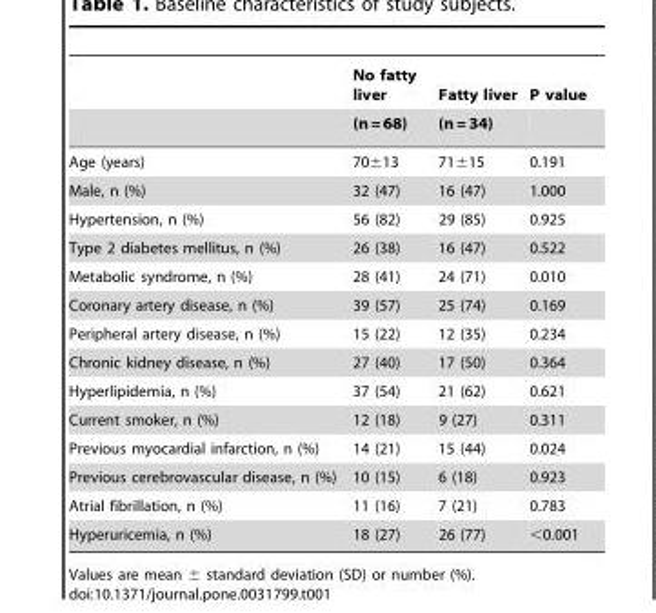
<table><thead><tr><td rowspan="2"></td><td rowspan="2">No fatty liver (n = 68)</td><td rowspan="2">Fatty liver (n = 34)</td><td rowspan="2">P value</td></tr><tr></tr></thead><tbody><tr><td>Age (years)</td><td>70±13</td><td>71±15</td><td>0.191</td></tr><tr><td>Male, n (%)</td><td>32 (47)</td><td>16 (47)</td><td>1.000</td></tr><tr><td>Hypertension, n (%)</td><td>56 (82)</td><td>29 (85)</td><td>0.925</td></tr><tr><td>Type 2 diabetes mellitus, n (%)</td><td>26 (38)</td><td>16 (47)</td><td>0.522</td></tr><tr><td>Metabolic syndrome, n (%)</td><td>28 (41)</td><td>24 (71)</td><td>0.010</td></tr><tr><td>Coronary artery disease, n (%)</td><td>39 (57)</td><td>25 (74)</td><td>0.169</td></tr><tr><td>Peripheral artery disease, n (%)</td><td>15 (22)</td><td>12 (35)</td><td>0.234</td></tr><tr><td>Chronic kidney disease, n (%)</td><td>27 (40)</td><td>17 (50)</td><td>0.364</td></tr><tr><td>Hyperlipidemia, n (%)</td><td>37 (54)</td><td>21 (62)</td><td>0.621</td></tr><tr><td>Current smoker, n (%)</td><td>12 (18)</td><td>9 (27)</td><td>0.311</td></tr><tr><td>Previous myocardial infarction, n (%)</td><td>14 (21)</td><td>15 (44)</td><td>0.024</td></tr><tr><td>Previous cerebrovascular disease, n (%)</td><td>10 (15)</td><td>6 (18)</td><td>0.923</td></tr><tr><td>Atrial fibrillation, n (%)</td><td>11 (16)</td><td>7 (21)</td><td>0.783</td></tr><tr><td>Hyperuricemia, n (%)</td><td>18 (27)</td><td>26 (77)</td><td>&lt;0.001</td></tr></tbody></table>